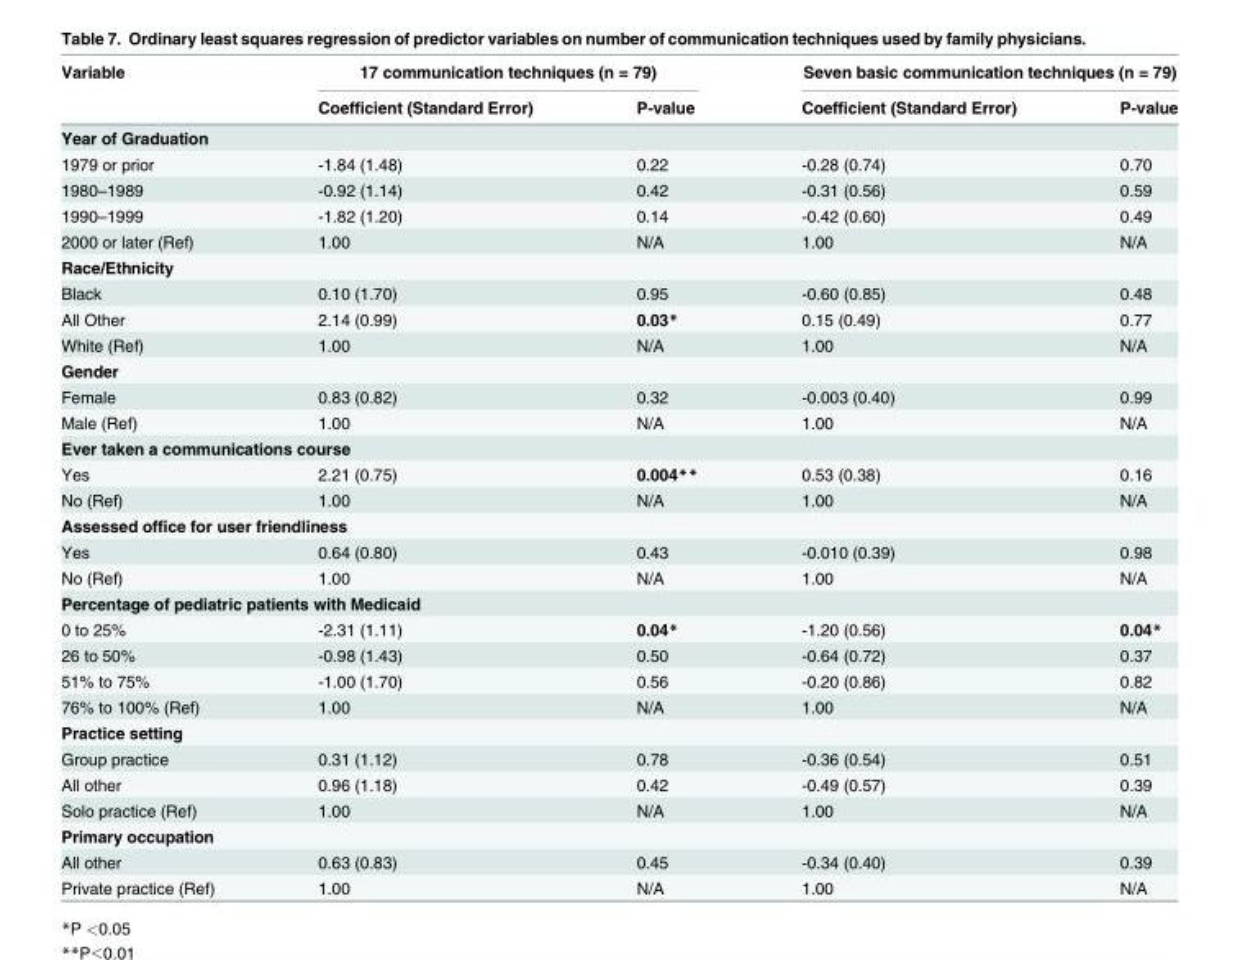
<table><thead><tr><td rowspan="2">Variable</td><td colspan="2">17 communication techniques (n = 79)</td><td colspan="2">Seven basic communication techniques (n = 79)</td></tr><tr><td>Coefficient (Standard Error)</td><td>P-value</td><td>Coefficient (Standard Error)</td><td>P-value</td></tr></thead><tbody><tr><td colspan="5">Year of Graduation</td></tr><tr><td>1979 or prior</td><td>-1.84 (1.48)</td><td>0.22</td><td>-0.28 (0.74)</td><td>0.70</td></tr><tr><td>1980–1989</td><td>-0.92 (1.14)</td><td>0.42</td><td>-0.31 (0.56)</td><td>0.59</td></tr><tr><td>1990–1999</td><td>-1.82 (1.20)</td><td>0.14</td><td>-0.42 (0.60)</td><td>0.49</td></tr><tr><td>2000 or later (Ref)</td><td>1.00</td><td>N/A</td><td>1.00</td><td>N/A</td></tr><tr><td colspan="5">Race/Ethnicity</td></tr><tr><td>Black</td><td>0.10 (1.70)</td><td>0.95</td><td>-0.60 (0.85)</td><td>0.48</td></tr><tr><td>All Other</td><td>2.14 (0.99)</td><td>0.03*</td><td>0.15 (0.49)</td><td>0.77</td></tr><tr><td>White (Ref)</td><td>1.00</td><td>N/A</td><td>1.00</td><td>N/A</td></tr><tr><td colspan="5">Gender</td></tr><tr><td>Female</td><td>0.83 (0.82)</td><td>0.32</td><td>-0.003 (0.40)</td><td>0.99</td></tr><tr><td>Male (Ref)</td><td>1.00</td><td>N/A</td><td>1.00</td><td>N/A</td></tr><tr><td colspan="5">Ever taken a communications course</td></tr><tr><td>Yes</td><td>2.21 (0.75)</td><td>0.004**</td><td>0.53 (0.38)</td><td>0.16</td></tr><tr><td>No (Ref)</td><td>1.00</td><td>N/A</td><td>1.00</td><td>N/A</td></tr><tr><td colspan="5">Assessed office for user friendliness</td></tr><tr><td>Yes</td><td>0.64 (0.80)</td><td>0.43</td><td>-0.010 (0.39)</td><td>0.98</td></tr><tr><td>No (Ref)</td><td>1.00</td><td>N/A</td><td>1.00</td><td>N/A</td></tr><tr><td colspan="5">Percentage of pediatric patients with Medicaid</td></tr><tr><td>0 to 25%</td><td>-2.31 (1.11)</td><td>0.04*</td><td>-1.20 (0.56)</td><td>0.04*</td></tr><tr><td>26 to 50%</td><td>-0.98 (1.43)</td><td>0.50</td><td>-0.64 (0.72)</td><td>0.37</td></tr><tr><td>51% to 75%</td><td>-1.00 (1.70)</td><td>0.56</td><td>-0.20 (0.86)</td><td>0.82</td></tr><tr><td>76% to 100% (Ref)</td><td>1.00</td><td>N/A</td><td>1.00</td><td>N/A</td></tr><tr><td colspan="5">Practice setting</td></tr><tr><td>Group practice</td><td>0.31 (1.12)</td><td>0.78</td><td>-0.36 (0.54)</td><td>0.51</td></tr><tr><td>All other</td><td>0.96 (1.18)</td><td>0.42</td><td>-0.49 (0.57)</td><td>0.39</td></tr><tr><td>Solo practice (Ref)</td><td>1.00</td><td>N/A</td><td>1.00</td><td>N/A</td></tr><tr><td colspan="5">Primary occupation</td></tr><tr><td>All other</td><td>0.63 (0.83)</td><td>0.45</td><td>-0.34 (0.40)</td><td>0.39</td></tr><tr><td>Private practice (Ref)</td><td>1.00</td><td>N/A</td><td>1.00</td><td>N/A</td></tr></tbody></table>